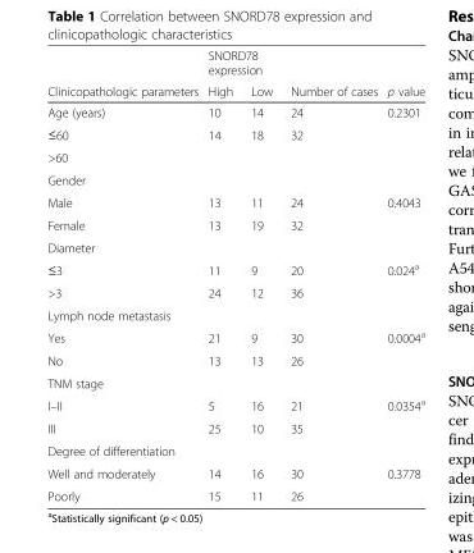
<table><thead><tr><td rowspan="2">Clinicopathologic parameters</td><td colspan="2">SNORD78 expression</td><td rowspan="2">Number of cases</td><td rowspan="2">p value</td></tr><tr><td>High</td><td>Low</td></tr></thead><tbody><tr><td>Age (years)</td><td>10</td><td>14</td><td>24</td><td>0.2301</td></tr><tr><td>≤60</td><td>14</td><td>18</td><td>32</td><td></td></tr><tr><td colspan="5">&gt;60</td></tr><tr><td colspan="5">Gender</td></tr><tr><td>Male</td><td>13</td><td>11</td><td>24</td><td>0.4043</td></tr><tr><td>Female</td><td>13</td><td>19</td><td>32</td><td></td></tr><tr><td colspan="5">Diameter</td></tr><tr><td>≤3</td><td>11</td><td>9</td><td>20</td><td>0.024<sup>a</sup></td></tr><tr><td>&gt;3</td><td>24</td><td>12</td><td>36</td><td></td></tr><tr><td colspan="5">Lymph node metastasis</td></tr><tr><td>Yes</td><td>21</td><td>9</td><td>30</td><td>0.0004<sup>a</sup></td></tr><tr><td>No</td><td>13</td><td>13</td><td>26</td><td></td></tr><tr><td colspan="5">TNM stage</td></tr><tr><td>I–II</td><td>5</td><td>16</td><td>21</td><td>0.0354<sup>a</sup></td></tr><tr><td>III</td><td>25</td><td>10</td><td>35</td><td></td></tr><tr><td colspan="5">Degree of differentiation</td></tr><tr><td>Well and moderately</td><td>14</td><td>16</td><td>30</td><td>0.3778</td></tr><tr><td>Poorly</td><td>15</td><td>11</td><td>26</td><td></td></tr></tbody></table>